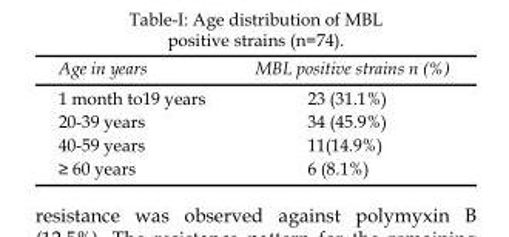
<table><thead><tr><td>Age in years</td><td>MBL positive strains n (%)</td></tr></thead><tbody><tr><td>1 month to19 years</td><td>23 (31.1%)</td></tr><tr><td>20-39 years</td><td>34 (45.9%)</td></tr><tr><td>40-59 years</td><td>11(14.9%)</td></tr><tr><td>≥ 60 years</td><td>6 (8.1%)</td></tr></tbody></table>